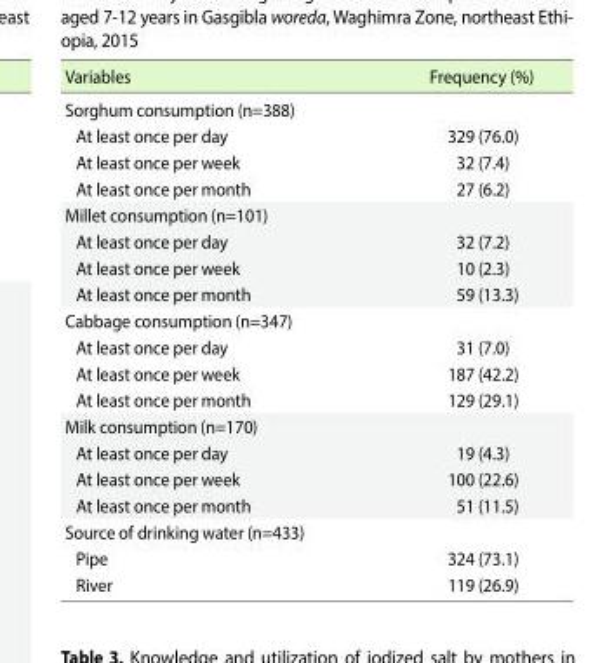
<table><thead><tr><td>Variables</td><td>Frequency (%)</td></tr></thead><tbody><tr><td colspan="2">Sorghum consumption (n=388)</td></tr><tr><td>At least once per day</td><td>329 (76.0)</td></tr><tr><td>At least once per week</td><td>32 (7.4)</td></tr><tr><td>At least once per month</td><td>27 (6.2)</td></tr><tr><td colspan="2">Millet consumption (n=101)</td></tr><tr><td>At least once per day</td><td>32 (7.2)</td></tr><tr><td>At least once per week</td><td>10 (2.3)</td></tr><tr><td>At least once per month</td><td>59 (13.3)</td></tr><tr><td colspan="2">Cabbage consumption (n=347)</td></tr><tr><td>At least once per day</td><td>31 (7.0)</td></tr><tr><td>At least once per week</td><td>187 (42.2)</td></tr><tr><td>At least once per month</td><td>129 (29.1)</td></tr><tr><td colspan="2">Milk consumption (n=170)</td></tr><tr><td>At least once per day</td><td>19 (4.3)</td></tr><tr><td>At least once per week</td><td>100 (22.6)</td></tr><tr><td>At least once per month</td><td>51 (11.5)</td></tr><tr><td colspan="2">Source of drinking water (n=433)</td></tr><tr><td>Pipe</td><td>324 (73.1)</td></tr><tr><td>River</td><td>119 (26.9)</td></tr></tbody></table>